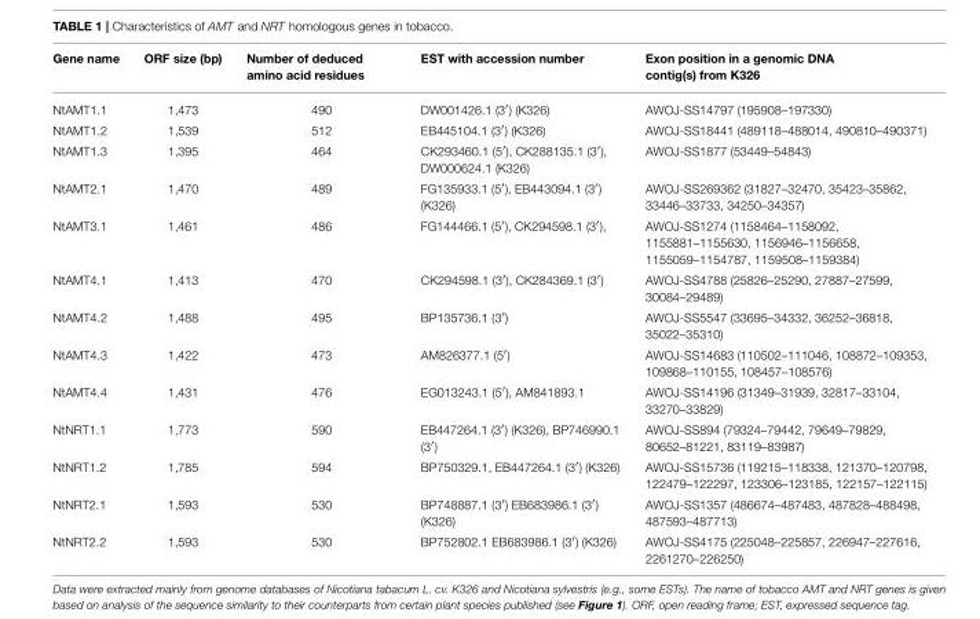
<table><thead><tr><td>Gene name</td><td>ORF size (bp)</td><td>Number of deduced amino acid residues</td><td>EST with accession number</td><td>Exon position in a genomic DNA contig(s) from K326</td></tr></thead><tbody><tr><td>NtAMT1.1</td><td>1,473</td><td>490</td><td>DW001426.1 (3′) (K326)</td><td>AWOJ-SS14797 (195908–197330)</td></tr><tr><td>NtAMT1.2</td><td>1,539</td><td>512</td><td>EB445104.1 (3′) (K326)</td><td>AWOJ-SS18441 (489118–488014, 490810–490371)</td></tr><tr><td>NtAMT1.3</td><td>1,395</td><td>464</td><td>CK293460.1 (5′), CK288135.1 (3′), DW000624.1 (K326)</td><td>AWOJ-SS1877 (53449–54843)</td></tr><tr><td>NtAMT2.1</td><td>1,470</td><td>489</td><td>FG135933.1 (5′), EB443094.1 (3′) (K326)</td><td>AWOJ-SS269362 (31827–32470, 35423–35862, 33446–33733, 34250–34357)</td></tr><tr><td>NtAMT3.1</td><td>1,461</td><td>486</td><td>FG144466.1 (5′), CK294598.1 (3′),</td><td>AWOJ-SS1274 (1158464–1158092, 1155881–1155630, 1156946–1156658, 1155059–1154787, 1159508–1159384)</td></tr><tr><td>NtAMT4.1</td><td>1,413</td><td>470</td><td>CK294598.1 (3′), CK284369.1 (3′)</td><td>AWOJ-SS4788 (25826–25290, 27887–27599, 30084–29489)</td></tr><tr><td>NtAMT4.2</td><td>1,488</td><td>495</td><td>BP135736.1 (3′)</td><td>AWOJ-SS5547 (33695–34332, 36252–36818, 35022–35310)</td></tr><tr><td>NtAMT4.3</td><td>1,422</td><td>473</td><td>AM826377.1 (5′)</td><td>AWOJ-SS14683 (110502–111046, 108872–109353, 109868–110155, 108457–108576)</td></tr><tr><td>NtAMT4.4</td><td>1,431</td><td>476</td><td>EG013243.1 (5′), AM841893.1</td><td>AWOJ-SS14196 (31349–31939, 32817–33104, 33270–33829)</td></tr><tr><td>NtNRT1.1</td><td>1,773</td><td>590</td><td>EB447264.1 (3′) (K326), BP746990.1 (3′)</td><td>AWOJ-SS894 (79324–79442, 79649–79829, 80652–81221, 83119–83987)</td></tr><tr><td>NtNRT1.2</td><td>1,785</td><td>594</td><td>BP750329.1, EB447264.1 (3′) (K326)</td><td>AWOJ-SS15736 (119215–118338, 121370–120798, 122479–122297, 123306–123185, 122157–122115)</td></tr><tr><td>NtNRT2.1</td><td>1,593</td><td>530</td><td>BP748887.1 (3′) EB683986.1 (3′) (K326)</td><td>AWOJ-SS1357 (486674–487483, 487828–488498, 487593–487713)</td></tr><tr><td>NtNRT2.2</td><td>1,593</td><td>530</td><td>BP752802.1 EB683986.1 (3′) (K326)</td><td>AWOJ-SS4175 (225048–225857, 226947–227616, 2261270–226250)</td></tr></tbody></table>